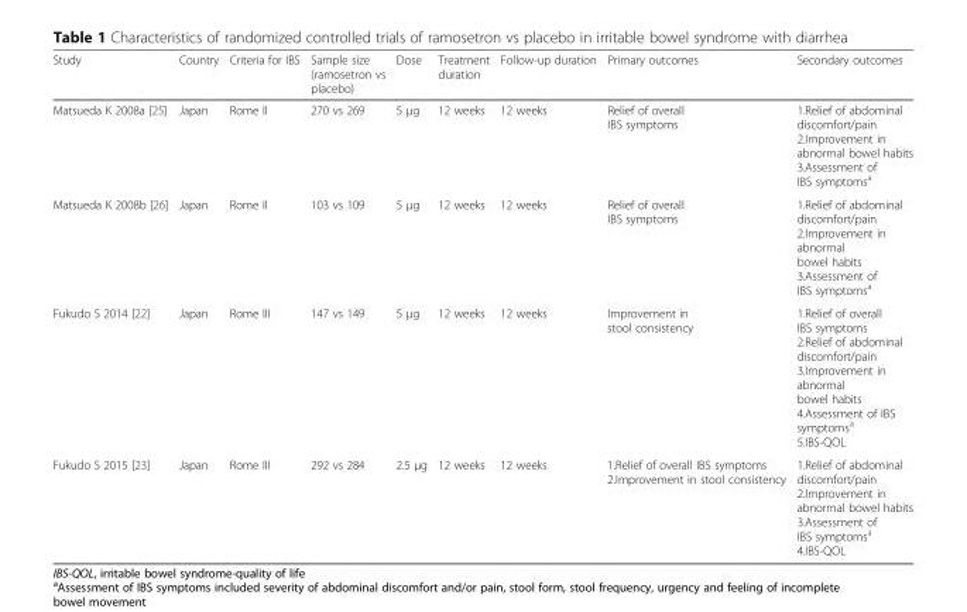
<table><thead><tr><td>Study</td><td>Country</td><td>Criteria for IBS</td><td>Sample size (ramosetron vs placebo)</td><td>Dose</td><td>Treatment duration</td><td>Follow-up duration</td><td>Primary outcomes</td><td>Secondary outcomes</td></tr></thead><tbody><tr><td>Matsueda K 2008a [25]</td><td>Japan</td><td>Rome II</td><td>270 vs 269</td><td>5 μg</td><td>12 weeks</td><td>12 weeks</td><td>Relief of overall IBS symptoms</td><td>1.Relief of abdominal discomfort/pain 2.Improvement in abnormal bowel habits 3.Assessment of IBS symptoms<sup>a</sup></td></tr><tr><td>Matsueda K 2008b [26]</td><td>Japan</td><td>Rome II</td><td>103 vs 109</td><td>5 μg</td><td>12 weeks</td><td>12 weeks</td><td>Relief of overall IBS symptoms</td><td>1.Relief of abdominal discomfort/pain 2.Improvement in abnormal bowel habits 3.Assessment of IBS symptoms<sup>a</sup></td></tr><tr><td>Fukudo S 2014 [22]</td><td>Japan</td><td>Rome III</td><td>147 vs 149</td><td>5 μg</td><td>12 weeks</td><td>12 weeks</td><td>Improvement in stool consistency</td><td>1.Relief of overall IBS symptoms 2.Relief of abdominal discomfort/pain 3.Improvement in abnormal bowel habits 4.Assessment of IBS symptoms<sup>a</sup> 5.IBS-QOL</td></tr><tr><td>Fukudo S 2015 [23]</td><td>Japan</td><td>Rome III</td><td>292 vs 284</td><td>2.5 μg</td><td>12 weeks</td><td>12 weeks</td><td>1.Relief of overall IBS symptoms 2.Improvement in stool consistency</td><td>1.Relief of abdominal discomfort/pain 2.Improvement in abnormal bowel habits 3.Assessment of IBS symptoms<sup>a</sup> 4.IBS-QOL</td></tr></tbody></table>